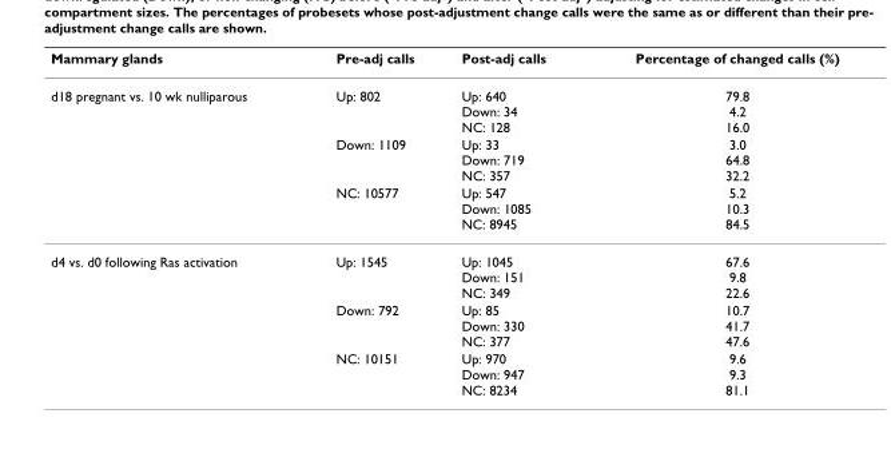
<table><thead><tr><td>Mammary glands</td><td>Pre-adj calls</td><td>Post-adj calls</td><td>Percentage of changed calls (%)</td></tr></thead><tbody><tr><td rowspan="3">d18 pregnant vs. 10 wk nulliparous</td><td>Up: 802</td><td>Up: 640 Down: 34 NC: 128</td><td>79.8 4.2 16.0</td></tr><tr><td>Down: 1109</td><td>Up: 33 Down: 719 NC: 357</td><td>3.0 64.8 32.2</td></tr><tr><td>NC: 10577</td><td>Up: 547 Down: 1085 NC: 8945</td><td>5.2 10.3 84.5</td></tr><tr><td rowspan="3">d4 vs. d0 following Ras activation</td><td>Up: 1545</td><td>Up: 1045 Down: 151 NC: 349</td><td>67.6 9.8 22.6</td></tr><tr><td>Down: 792</td><td>Up: 85 Down: 330 NC: 377</td><td>10.7 41.7 47.6</td></tr><tr><td>NC: 10151</td><td>Up: 970 Down: 947 NC: 8234</td><td>9.6 9.3 81.1</td></tr></tbody></table>